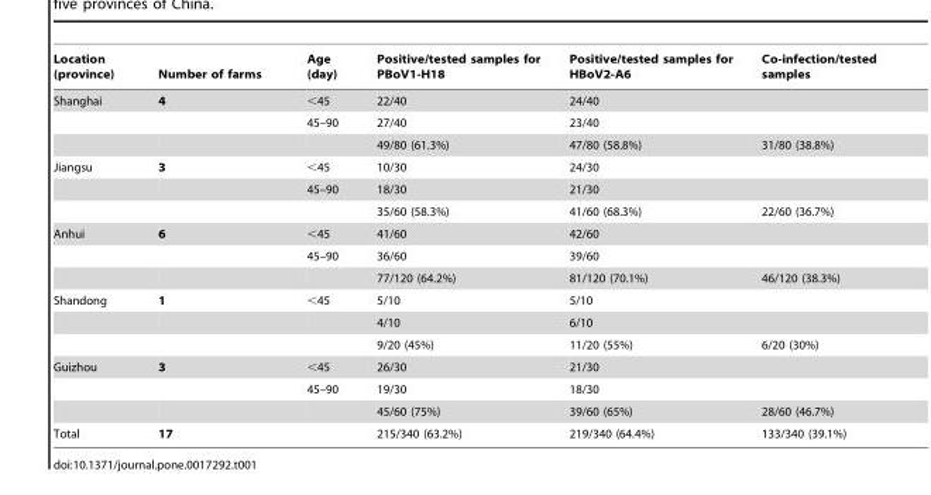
<table><thead><tr><td>Location (province)</td><td>Number of farms</td><td>Age (day)</td><td>Positive/tested samples for PBoV1-H18</td><td>Positive/tested samples for HBoV2-A6</td><td>Co-infection/tested samples</td></tr></thead><tbody><tr><td rowspan="3">Shanghai</td><td>4</td><td>&lt;45</td><td>22/40</td><td>24/40</td><td></td></tr><tr><td></td><td>45–90</td><td>27/40</td><td>23/40</td><td></td></tr><tr><td></td><td></td><td>49/80 (61.3%)</td><td>47/80 (58.8%)</td><td>31/80 (38.8%)</td></tr><tr><td rowspan="3">Jiangsu</td><td>3</td><td>&lt;45</td><td>10/30</td><td>24/30</td><td></td></tr><tr><td></td><td>45–90</td><td>18/30</td><td>21/30</td><td></td></tr><tr><td></td><td></td><td>35/60 (58.3%)</td><td>41/60 (68.3%)</td><td>22/60 (36.7%)</td></tr><tr><td rowspan="3">Anhui</td><td>6</td><td>&lt;45</td><td>41/60</td><td>42/60</td><td></td></tr><tr><td></td><td>45–90</td><td>36/60</td><td>39/60</td><td></td></tr><tr><td></td><td></td><td>77/120 (64.2%)</td><td>81/120 (70.1%)</td><td>46/120 (38.3%)</td></tr><tr><td rowspan="3">Shandong</td><td>1</td><td>&lt;45</td><td>5/10</td><td>5/10</td><td></td></tr><tr><td></td><td></td><td>4/10</td><td>6/10</td><td></td></tr><tr><td></td><td></td><td>9/20 (45%)</td><td>11/20 (55%)</td><td>6/20 (30%)</td></tr><tr><td rowspan="3">Guizhou</td><td>3</td><td>&lt;45</td><td>26/30</td><td>21/30</td><td></td></tr><tr><td></td><td>45–90</td><td>19/30</td><td>18/30</td><td></td></tr><tr><td></td><td></td><td>45/60 (75%)</td><td>39/60 (65%)</td><td>28/60 (46.7%)</td></tr><tr><td>Total</td><td>17</td><td></td><td>215/340 (63.2%)</td><td>219/340 (64.4%)</td><td>133/340 (39.1%)</td></tr></tbody></table>